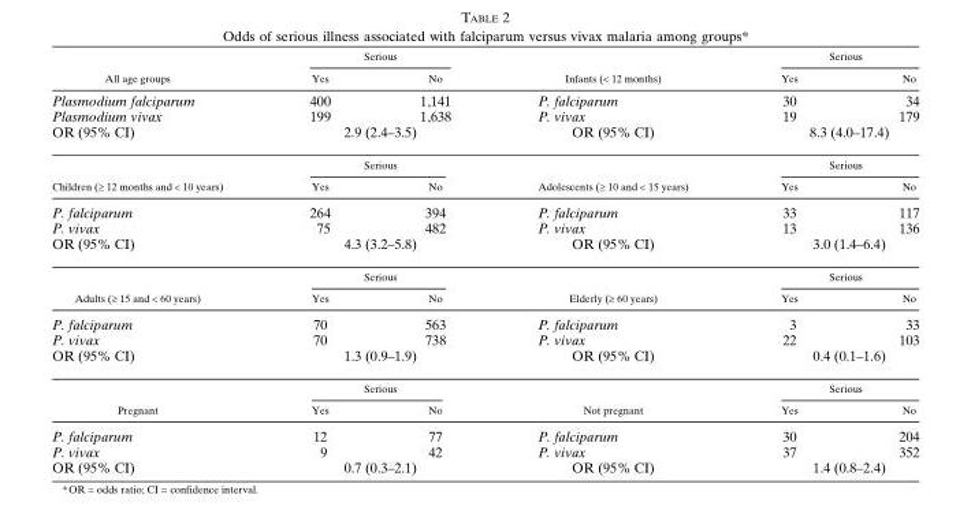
<table><thead><tr><td rowspan="2">All age groups</td><td colspan="2">Serious</td><td rowspan="2">Infants (&lt; 12 months)</td><td colspan="2">Serious</td></tr><tr><td>Yes</td><td>No</td><td>Yes</td><td>No</td></tr></thead><tbody><tr><td>Plasmodium falciparum</td><td>400</td><td>1,141</td><td>P. falciparum</td><td>30</td><td>34</td></tr><tr><td>Plasmodium vivax</td><td>199</td><td>1,638</td><td>P. vivax</td><td>19</td><td>179</td></tr><tr><td>OR (95% CI)</td><td colspan="2">2.9 (2.4–3.5)</td><td>OR (95% CI)</td><td colspan="2">8.3 (4.0–17.4)</td></tr><tr><td rowspan="2">Children (≥ 12 months and &lt; 10 years)</td><td colspan="2">Serious</td><td rowspan="2">Adolescents (≥ 10 and &lt; 15 years)</td><td colspan="2">Serious</td></tr><tr><td>Yes</td><td>No</td><td>Yes</td><td>No</td></tr><tr><td>P. falciparum</td><td>264</td><td>394</td><td>P. falciparum</td><td>33</td><td>117</td></tr><tr><td>P. vivax</td><td>75</td><td>482</td><td>P. vivax</td><td>13</td><td>136</td></tr><tr><td>OR (95% CI)</td><td colspan="2">4.3 (3.2–5.8)</td><td>OR (95% CI)</td><td colspan="2">3.0 (1.4–6.4)</td></tr><tr><td rowspan="2">Adults (≥ 15 and &lt; 60 years)</td><td colspan="2">Serious</td><td rowspan="2">Elderly (≥ 60 years)</td><td colspan="2">Serious</td></tr><tr><td>Yes</td><td>No</td><td>Yes</td><td>No</td></tr><tr><td>P. falciparum</td><td>70</td><td>563</td><td>P. falciparum</td><td>3</td><td>33</td></tr><tr><td>P. vivax</td><td>70</td><td>738</td><td>P. vivax</td><td>22</td><td>103</td></tr><tr><td>OR (95% CI)</td><td colspan="2">1.3 (0.9–1.9)</td><td>OR (95% CI)</td><td colspan="2">0.4 (0.1–1.6)</td></tr><tr><td rowspan="2">Pregnant</td><td colspan="2">Serious</td><td rowspan="2">Not pregnant</td><td colspan="2">Serious</td></tr><tr><td>Yes</td><td>No</td><td>Yes</td><td>No</td></tr><tr><td>P. falciparum</td><td>12</td><td>77</td><td>P. falciparum</td><td>30</td><td>204</td></tr><tr><td>P. vivax</td><td>9</td><td>42</td><td>P. vivax</td><td>37</td><td>352</td></tr><tr><td>OR (95% CI)</td><td colspan="2">0.7 (0.3–2.1)</td><td>OR (95% CI)</td><td colspan="2">1.4 (0.8–2.4)</td></tr></tbody></table>